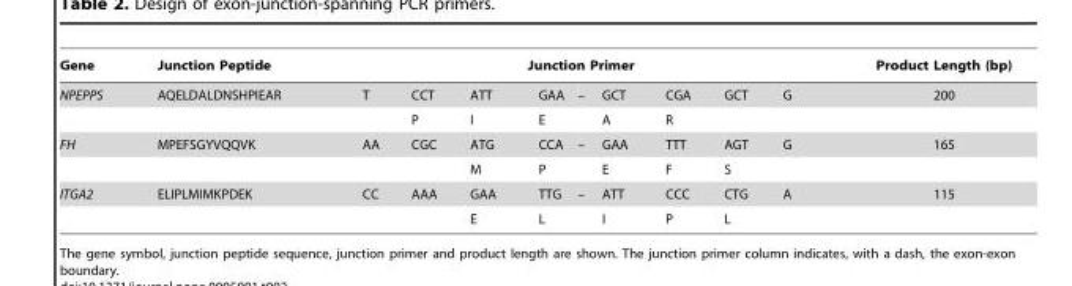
<table><thead><tr><td rowspan="2">Gene NPEPPS</td><td rowspan="2">Junction Peptide AQELDALDNSHPIEAR</td><td colspan="9">Junction Primer</td><td rowspan="2">Product Length (bp) 200</td></tr><tr><td>T</td><td>CCT</td><td>ATT</td><td>GAA</td><td>–</td><td>GCT</td><td>CGA</td><td>GCT</td><td>G</td></tr></thead><tbody><tr><td></td><td></td><td></td><td>P</td><td>I</td><td>E</td><td></td><td>A</td><td>R</td><td></td><td></td><td></td></tr><tr><td rowspan="2">FH</td><td>MPEFSGYVQQVK</td><td>AA</td><td>CGC</td><td>ATG</td><td>CCA</td><td>–</td><td>GAA</td><td>TTT</td><td>AGT</td><td>G</td><td>165</td></tr><tr><td></td><td></td><td></td><td>M</td><td>P</td><td></td><td>E</td><td>F</td><td>S</td><td></td><td></td></tr><tr><td rowspan="2">ITGA2</td><td>ELIPLMIMKPDEK</td><td>CC</td><td>AAA</td><td>GAA</td><td>TTG</td><td>–</td><td>ATT</td><td>CCC</td><td>CTG</td><td>A</td><td>115</td></tr><tr><td></td><td></td><td></td><td>E</td><td>L</td><td></td><td>I</td><td>P</td><td>L</td><td></td><td></td></tr></tbody></table>